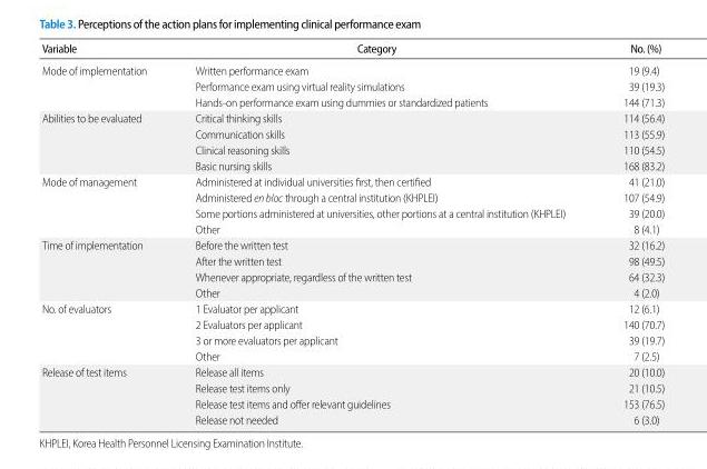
<table><thead><tr><td>Variable</td><td>Category</td><td>No. (%)</td></tr></thead><tbody><tr><td rowspan="3">Mode of implementation</td><td>Written performance exam</td><td>19 (9.4)</td></tr><tr><td>Performance exam using virtual reality simulations</td><td>39 (19.3)</td></tr><tr><td>Hands-on performance exam using dummies or standardized patients</td><td>144 (71.3)</td></tr><tr><td rowspan="4">Abilities to be evaluated</td><td>Critical thinking skills</td><td>114 (56.4)</td></tr><tr><td>Communication skills</td><td>113 (55.9)</td></tr><tr><td>Clinical reasoning skills</td><td>110 (54.5)</td></tr><tr><td>Basic nursing skills</td><td>168 (83.2)</td></tr><tr><td rowspan="4">Mode of management</td><td>Administered at individual universities first, then certified</td><td>41 (21.0)</td></tr><tr><td>Administered en bloc through a central institution (KHPLEI)</td><td>107 (54.9)</td></tr><tr><td>Some portions administered at universities, other portions at a central institution (KHPLEI)</td><td>39 (20.0)</td></tr><tr><td>Other</td><td>8 (4.1)</td></tr><tr><td rowspan="4">Time of implementation</td><td>Before the written test</td><td>32 (16.2)</td></tr><tr><td>After the written test</td><td>98 (49.5)</td></tr><tr><td>Whenever appropriate, regardless of the written test</td><td>64 (32.3)</td></tr><tr><td>Other</td><td>4 (2.0)</td></tr><tr><td rowspan="4">No. of evaluators</td><td>1 Evaluator per applicant</td><td>12 (6.1)</td></tr><tr><td>2 Evaluators per applicant</td><td>140 (70.7)</td></tr><tr><td>3 or more evaluators per applicant</td><td>39 (19.7)</td></tr><tr><td>Other</td><td>7 (2.5)</td></tr><tr><td rowspan="4">Release of test items</td><td>Release all items</td><td>20 (10.0)</td></tr><tr><td>Release test items only</td><td>21 (10.5)</td></tr><tr><td>Release test items and offer relevant guidelines</td><td>153 (76.5)</td></tr><tr><td>Release not needed</td><td>6 (3.0)</td></tr></tbody></table>